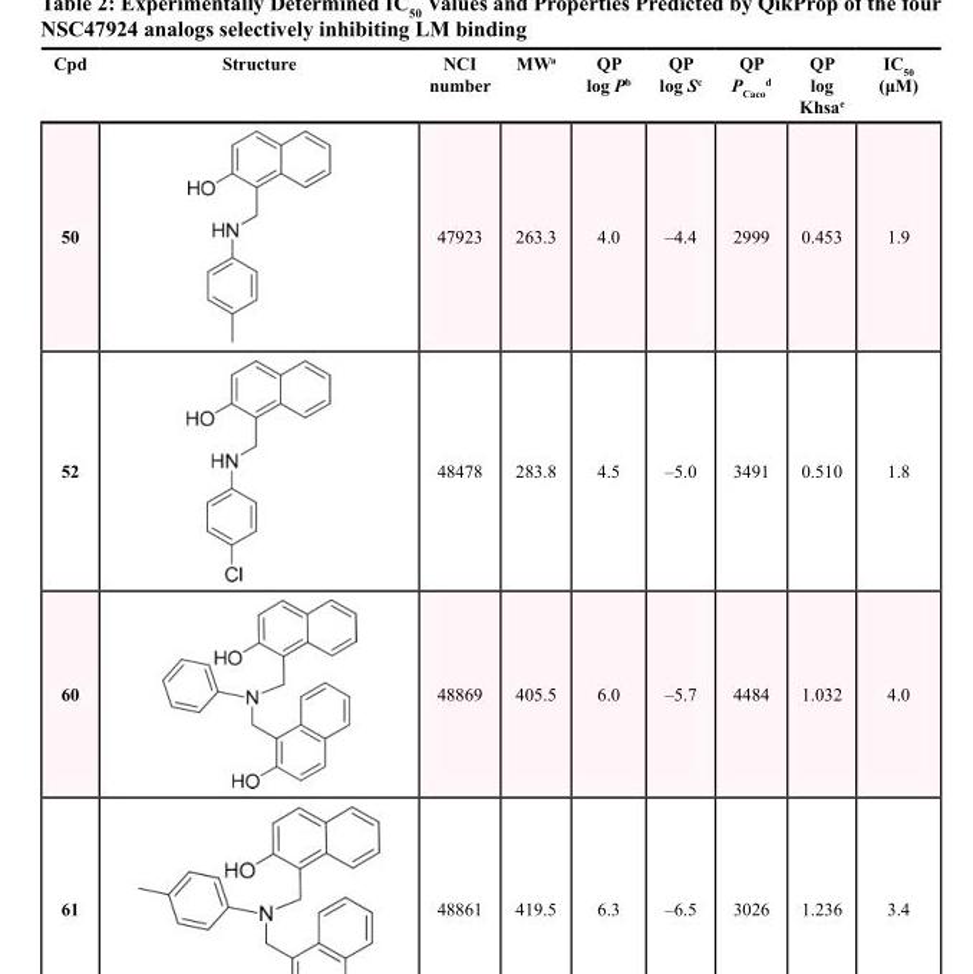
<table><thead><tr><td>Cpd</td><td>Structure</td><td>NCI number</td><td>MW<sup>a</sup></td><td>QP log P<sup>b</sup></td><td>QP log S<sup>c</sup></td><td>QP P<sub>Caco</sub> <sup>d</sup></td><td>QP log Khsa<sup>e</sup></td><td>IC<sub>50</sub> (μM)</td></tr></thead><tbody><tr><td>50</td><td></td><td>47923</td><td>263.3</td><td>4.0</td><td>–4.4</td><td>2999</td><td>0.453</td><td>1.9</td></tr><tr><td>52</td><td></td><td>48478</td><td>283.8</td><td>4.5</td><td>–5.0</td><td>3491</td><td>0.510</td><td>1.8</td></tr><tr><td>60</td><td></td><td>48869</td><td>405.5</td><td>6.0</td><td>–5.7</td><td>4484</td><td>1.032</td><td>4.0</td></tr><tr><td>61</td><td></td><td>48861</td><td>419.5</td><td>6.3</td><td>–6.5</td><td>3026</td><td>1.236</td><td>3.4</td></tr></tbody></table>